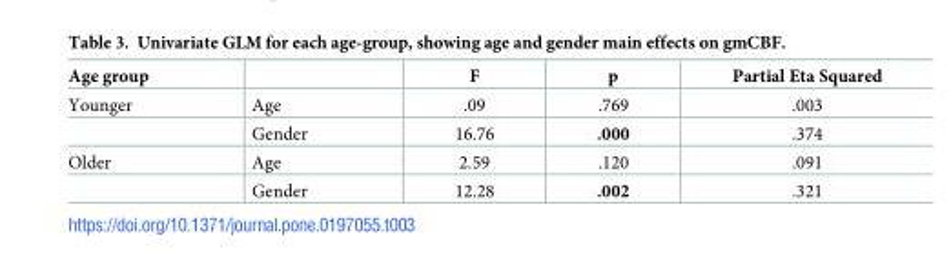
<table><thead><tr><td>Age group</td><td></td><td>F</td><td>p</td><td>Partial Eta Squared</td></tr></thead><tbody><tr><td rowspan="2">Younger</td><td>Age</td><td>.09</td><td>.769</td><td>.003</td></tr><tr><td>Gender</td><td>16.76</td><td>.000</td><td>.374</td></tr><tr><td rowspan="2">Older</td><td>Age</td><td>2.59</td><td>.120</td><td>.091</td></tr><tr><td>Gender</td><td>12.28</td><td>.002</td><td>.321</td></tr></tbody></table>